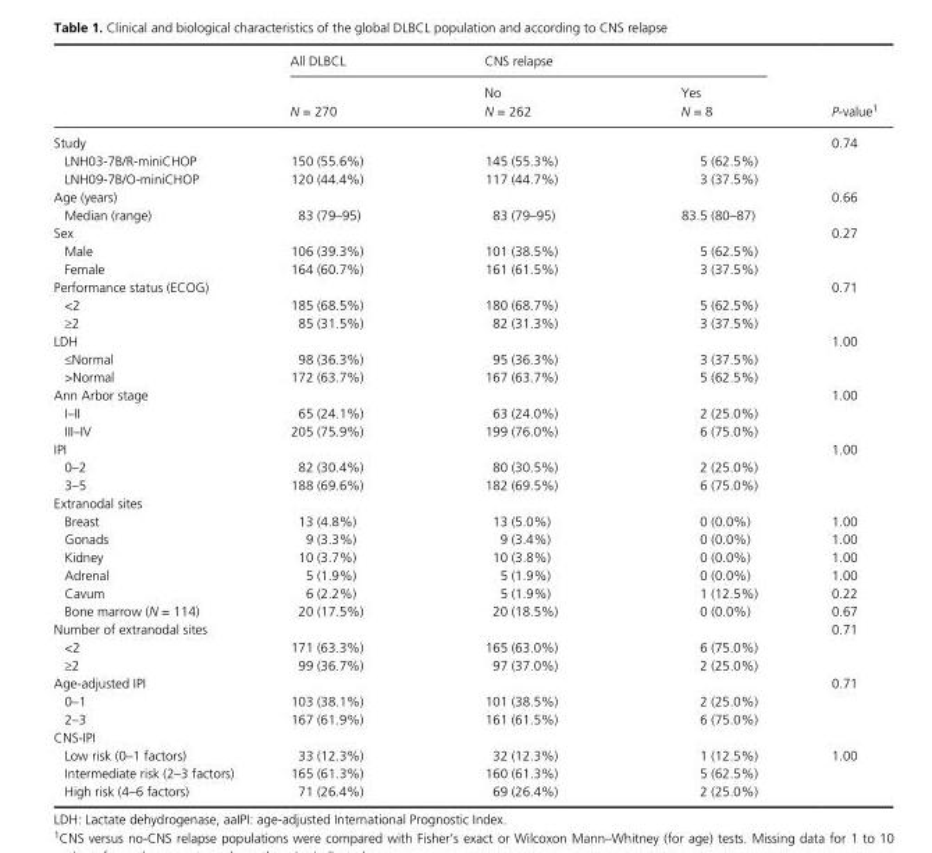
<table><thead><tr><td rowspan="2"></td><td rowspan="2">All DLBCL N = 270</td><td colspan="2">CNS relapse</td><td rowspan="2">P- value1</td></tr><tr><td>No N = 262</td><td>Yes N = 8</td></tr></thead><tbody><tr><td colspan="4">Study</td><td rowspan="3">0.74</td></tr><tr><td>LNH03- 7B/R- miniCHOP</td><td>150 (55.6%)</td><td>145 (55.3%)</td><td>5 (62.5%)</td></tr><tr><td>LNH09- 7B/O- miniCHOP</td><td>120 (44.4%)</td><td>117 (44.7%)</td><td>3 (37.5%)</td></tr><tr><td colspan="4">Age (years)</td><td rowspan="2">0.66</td></tr><tr><td>Median (range)</td><td>83 (79–95)</td><td>83 (79–95)</td><td>83.5 (80–87)</td></tr><tr><td colspan="4">Sex</td><td rowspan="3">0.27</td></tr><tr><td>Male</td><td>106 (39.3%)</td><td>101 (38.5%)</td><td>5 (62.5%)</td></tr><tr><td>Female</td><td>164 (60.7%)</td><td>161 (61.5%)</td><td>3 (37.5%)</td></tr><tr><td colspan="4">Performance status (ECOG)</td><td rowspan="3">0.71</td></tr><tr><td>&lt;2</td><td>185 (68.5%)</td><td>180 (68.7%)</td><td>5 (62.5%)</td></tr><tr><td>≥2</td><td>85 (31.5%)</td><td>82 (31.3%)</td><td>3 (37.5%)</td></tr><tr><td colspan="4">LDH</td><td rowspan="3">1.00</td></tr><tr><td>≤Normal</td><td>98 (36.3%)</td><td>95 (36.3%)</td><td>3 (37.5%)</td></tr><tr><td>&gt;Normal</td><td>172 (63.7%)</td><td>167 (63.7%)</td><td>5 (62.5%)</td></tr><tr><td colspan="4">Ann Arbor stage</td><td rowspan="3">1.00</td></tr><tr><td>I–II</td><td>65 (24.1%)</td><td>63 (24.0%)</td><td>2 (25.0%)</td></tr><tr><td>III–IV</td><td>205 (75.9%)</td><td>199 (76.0%)</td><td>6 (75.0%)</td></tr><tr><td colspan="4">IPI</td><td rowspan="3">1.00</td></tr><tr><td>0–2</td><td>82 (30.4%)</td><td>80 (30.5%)</td><td>2 (25.0%)</td></tr><tr><td>3–5</td><td>188 (69.6%)</td><td>182 (69.5%)</td><td>6 (75.0%)</td></tr><tr><td colspan="5">Extranodal sites</td></tr><tr><td>Breast</td><td>13 (4.8%)</td><td>13 (5.0%)</td><td>0 (0.0%)</td><td>1.00</td></tr><tr><td>Gonads</td><td>9 (3.3%)</td><td>9 (3.4%)</td><td>0 (0.0%)</td><td>1.00</td></tr><tr><td>Kidney</td><td>10 (3.7%)</td><td>10 (3.8%)</td><td>0 (0.0%)</td><td>1.00</td></tr><tr><td>Adrenal</td><td>5 (1.9%)</td><td>5 (1.9%)</td><td>0 (0.0%)</td><td>1.00</td></tr><tr><td>Cavum</td><td>6 (2.2%)</td><td>5 (1.9%)</td><td>1 (12.5%)</td><td>0.22</td></tr><tr><td>Bone marrow (N = 114)</td><td>20 (17.5%)</td><td>20 (18.5%)</td><td>0 (0.0%)</td><td>0.67</td></tr><tr><td colspan="4">Number of extranodal sites</td><td rowspan="3">0.71</td></tr><tr><td>&lt;2</td><td>171 (63.3%)</td><td>165 (63.0%)</td><td>6 (75.0%)</td></tr><tr><td>≥2</td><td>99 (36.7%)</td><td>97 (37.0%)</td><td>2 (25.0%)</td></tr><tr><td colspan="4">Age- adjusted IPI</td><td rowspan="3">0.71</td></tr><tr><td>0–1</td><td>103 (38.1%)</td><td>101 (38.5%)</td><td>2 (25.0%)</td></tr><tr><td>2–3</td><td>167 (61.9%)</td><td>161 (61.5%)</td><td>6 (75.0%)</td></tr><tr><td colspan="5">CNS- IPI</td></tr><tr><td>Low risk (0–1 factors)</td><td>33 (12.3%)</td><td>32 (12.3%)</td><td>1 (12.5%)</td><td>1.00</td></tr><tr><td>Intermediate risk (2–3 factors)</td><td>165 (61.3%)</td><td>160 (61.3%)</td><td>5 (62.5%)</td><td></td></tr><tr><td>High risk (4–6 factors)</td><td>71 (26.4%)</td><td>69 (26.4%)</td><td>2 (25.0%)</td><td></td></tr></tbody></table>